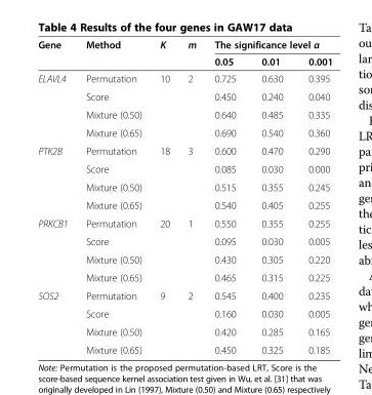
<table><thead><tr><td rowspan="2">Gene</td><td rowspan="2">Method</td><td rowspan="2">K</td><td rowspan="2">m</td><td colspan="3">The significance level α</td></tr><tr><td>0.05</td><td>0.01</td><td>0.001</td></tr></thead><tbody><tr><td rowspan="4">ELAVL4</td><td>Permutation</td><td>10</td><td>2</td><td>0.725</td><td>0.630</td><td>0.395</td></tr><tr><td>Score</td><td></td><td></td><td>0.450</td><td>0.240</td><td>0.040</td></tr><tr><td>Mixture (0.50)</td><td></td><td></td><td>0.640</td><td>0.485</td><td>0.335</td></tr><tr><td>Mixture (0.65)</td><td></td><td></td><td>0.690</td><td>0.540</td><td>0.360</td></tr><tr><td rowspan="4">PTK2B</td><td>Permutation</td><td>18</td><td>3</td><td>0.600</td><td>0.470</td><td>0.290</td></tr><tr><td>Score</td><td></td><td></td><td>0.085</td><td>0.030</td><td>0.000</td></tr><tr><td>Mixture (0.50)</td><td></td><td></td><td>0.515</td><td>0.355</td><td>0.245</td></tr><tr><td>Mixture (0.65)</td><td></td><td></td><td>0.540</td><td>0.405</td><td>0.255</td></tr><tr><td rowspan="4">PRKCB1</td><td>Permutation</td><td>20</td><td>1</td><td>0.550</td><td>0.355</td><td>0.255</td></tr><tr><td>Score</td><td></td><td></td><td>0.095</td><td>0.030</td><td>0.005</td></tr><tr><td>Mixture (0.50)</td><td></td><td></td><td>0.430</td><td>0.305</td><td>0.220</td></tr><tr><td>Mixture (0.65)</td><td></td><td></td><td>0.465</td><td>0.315</td><td>0.225</td></tr><tr><td rowspan="4">SOS2</td><td>Permutation</td><td>9</td><td>2</td><td>0.545</td><td>0.400</td><td>0.235</td></tr><tr><td>Score</td><td></td><td></td><td>0.160</td><td>0.030</td><td>0.005</td></tr><tr><td>Mixture (0.50)</td><td></td><td></td><td>0.420</td><td>0.285</td><td>0.165</td></tr><tr><td>Mixture (0.65)</td><td></td><td></td><td>0.450</td><td>0.325</td><td>0.185</td></tr></tbody></table>